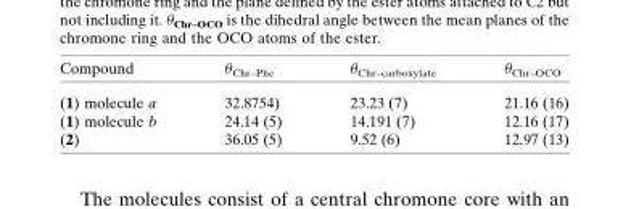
<table><thead><tr><td>Compound</td><td>θ<sub>Chr–Phe</sub></td><td>θ<sub>Chr–carboxylate</sub></td><td>θ<sub>Chr–OCO</sub></td></tr></thead><tbody><tr><td>(1) molecule a</td><td>32.8754)</td><td>23.23 (7)</td><td>21.16 (16)</td></tr><tr><td>(1) molecule b</td><td>24.14 (5)</td><td>14.191 (7)</td><td>12.16 (17)</td></tr><tr><td>(2)</td><td>36.05 (5)</td><td>9.52 (6)</td><td>12.97 (13)</td></tr></tbody></table>